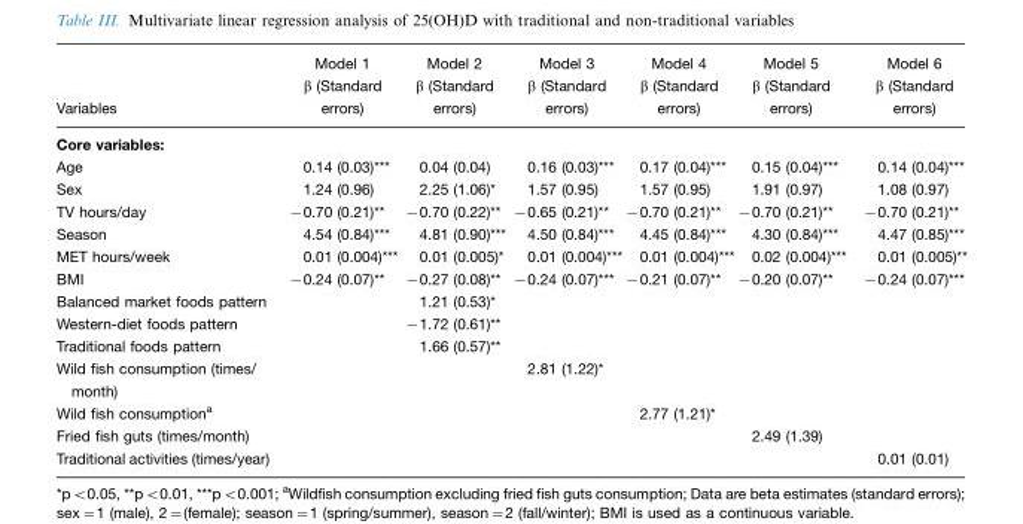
<table><thead><tr><td>Variables</td><td>Model 1 β (Standard errors)</td><td>Model 2 β (Standard errors)</td><td>Model 3 β (Standard errors)</td><td>Model 4 β (Standard errors)</td><td>Model 5 β (Standard errors)</td><td>Model 6 β (Standard errors)</td></tr></thead><tbody><tr><td colspan="7">Core variables:</td></tr><tr><td>Age</td><td>0.14 (0.03)***</td><td>0.04 (0.04)</td><td>0.16 (0.03)***</td><td>0.17 (0.04)***</td><td>0.15 (0.04)***</td><td>0.14 (0.04)***</td></tr><tr><td>Sex</td><td>1.24 (0.96)</td><td>2.25 (1.06)*</td><td>1.57 (0.95)</td><td>1.57 (0.95)</td><td>1.91 (0.97)</td><td>1.08 (0.97)</td></tr><tr><td>TV hours/day</td><td>−0.70 (0.21)**</td><td>−0.70 (0.22)**</td><td>−0.65 (0.21)**</td><td>−0.70 (0.21)**</td><td>−0.70 (0.21)**</td><td>−0.70 (0.21)**</td></tr><tr><td>Season</td><td>4.54 (0.84)***</td><td>4.81 (0.90)***</td><td>4.50 (0.84)***</td><td>4.45 (0.84)***</td><td>4.30 (0.84)***</td><td>4.47 (0.85)***</td></tr><tr><td>MET hours/week</td><td>0.01 (0.004)***</td><td>0.01 (0.005)*</td><td>0.01 (0.004)***</td><td>0.01 (0.004)***</td><td>0.02 (0.004)***</td><td>0.01 (0.005)**</td></tr><tr><td>BMI</td><td>−0.24 (0.07)**</td><td>−0.27 (0.08)**</td><td>−0.24 (0.07)***</td><td>−0.21 (0.07)**</td><td>−0.20 (0.07)**</td><td>−0.24 (0.07)***</td></tr><tr><td>Balanced market foods pattern</td><td></td><td>1.21 (0.53)*</td><td></td><td></td><td></td><td></td></tr><tr><td>Western-diet foods pattern</td><td></td><td>−1.72 (0.61)**</td><td></td><td></td><td></td><td></td></tr><tr><td>Traditional foods pattern</td><td></td><td>1.66 (0.57)**</td><td></td><td></td><td></td><td></td></tr><tr><td>Wild fish consumption (times/ month)</td><td></td><td></td><td>2.81 (1.22)*</td><td></td><td></td><td></td></tr><tr><td>Wild fish consumption<sup>a</sup></td><td></td><td></td><td></td><td>2.77 (1.21)*</td><td></td><td></td></tr><tr><td>Fried fish guts (times/month)</td><td></td><td></td><td></td><td></td><td>2.49 (1.39)</td><td></td></tr><tr><td>Traditional activities (times/year)</td><td></td><td></td><td></td><td></td><td></td><td>0.01 (0.01)</td></tr></tbody></table>